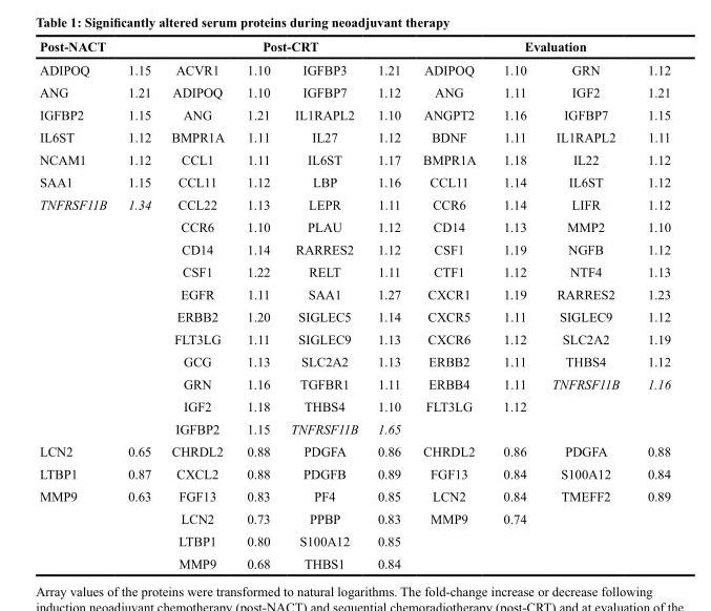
<table><thead><tr><td colspan="2">Post-NACT</td><td colspan="4">Post-CRT</td><td colspan="4">Evaluation</td></tr><tr><td>ADIPOQ</td><td>1.15</td><td>ACVR1</td><td>1.10</td><td>IGFBP3</td><td>1.21</td><td>ADIPOQ</td><td>1.10</td><td>GRN</td><td>1.12</td></tr></thead><tbody><tr><td>ANG</td><td>1.21</td><td>ADIPOQ</td><td>1.10</td><td>IGFBP7</td><td>1.12</td><td>ANG</td><td>1.11</td><td>IGF2</td><td>1.21</td></tr><tr><td>IGFBP2</td><td>1.15</td><td>ANG</td><td>1.21</td><td>IL1RAPL2</td><td>1.10</td><td>ANGPT2</td><td>1.16</td><td>IGFBP7</td><td>1.15</td></tr><tr><td>IL6ST</td><td>1.12</td><td>BMPR1A</td><td>1.11</td><td>IL27</td><td>1.12</td><td>BDNF</td><td>1.11</td><td>IL1RAPL2</td><td>1.11</td></tr><tr><td>NCAM1</td><td>1.12</td><td>CCL1</td><td>1.11</td><td>IL6ST</td><td>1.17</td><td>BMPR1A</td><td>1.18</td><td>IL22</td><td>1.12</td></tr><tr><td>SAA1</td><td>1.15</td><td>CCL11</td><td>1.12</td><td>LBP</td><td>1.16</td><td>CCL11</td><td>1.14</td><td>IL6ST</td><td>1.12</td></tr><tr><td rowspan="11">TNFRSF11B</td><td>1.34</td><td>CCL22</td><td>1.13</td><td>LEPR</td><td>1.11</td><td>CCR6</td><td>1.14</td><td>LIFR</td><td>1.12</td></tr><tr><td></td><td>CCR6</td><td>1.10</td><td>PLAU</td><td>1.12</td><td>CD14</td><td>1.13</td><td>MMP2</td><td>1.10</td></tr><tr><td></td><td>CD14</td><td>1.14</td><td>RARRES2</td><td>1.12</td><td>CSF1</td><td>1.19</td><td>NGFB</td><td>1.12</td></tr><tr><td></td><td>CSF1</td><td>1.22</td><td>RELT</td><td>1.11</td><td>CTF1</td><td>1.12</td><td>NTF4</td><td>1.13</td></tr><tr><td></td><td>EGFR</td><td>1.11</td><td>SAA1</td><td>1.27</td><td>CXCR1</td><td>1.19</td><td>RARRES2</td><td>1.23</td></tr><tr><td></td><td>ERBB2</td><td>1.20</td><td>SIGLEC5</td><td>1.14</td><td>CXCR5</td><td>1.11</td><td>SIGLEC9</td><td>1.12</td></tr><tr><td></td><td>FLT3LG</td><td>1.11</td><td>SIGLEC9</td><td>1.13</td><td>CXCR6</td><td>1.12</td><td>SLC2A2</td><td>1.19</td></tr><tr><td></td><td>GCG</td><td>1.13</td><td>SLC2A2</td><td>1.13</td><td>ERBB2</td><td>1.11</td><td>THBS4</td><td>1.12</td></tr><tr><td></td><td>GRN</td><td>1.16</td><td>TGFBR1</td><td>1.11</td><td>ERBB4</td><td>1.11</td><td>TNFRSF11B</td><td>1.16</td></tr><tr><td></td><td>IGF2</td><td>1.18</td><td>THBS4</td><td>1.10</td><td>FLT3LG</td><td>1.12</td><td></td><td></td></tr><tr><td></td><td>IGFBP2</td><td>1.15</td><td>TNFRSF11B</td><td>1.65</td><td></td><td></td><td></td><td></td></tr><tr><td>LCN2</td><td>0.65</td><td>CHRDL2</td><td>0.88</td><td>PDGFA</td><td>0.86</td><td>CHRDL2</td><td>0.86</td><td>PDGFA</td><td>0.88</td></tr><tr><td>LTBP1</td><td>0.87</td><td>CXCL2</td><td>0.88</td><td>PDGFB</td><td>0.89</td><td>FGF13</td><td>0.84</td><td>S100A12</td><td>0.84</td></tr><tr><td rowspan="4">MMP9</td><td>0.63</td><td>FGF13</td><td>0.83</td><td>PF4</td><td>0.85</td><td>LCN2</td><td>0.84</td><td>TMEFF2</td><td>0.89</td></tr><tr><td></td><td>LCN2</td><td>0.73</td><td>PPBP</td><td>0.83</td><td>MMP9</td><td>0.74</td><td></td><td></td></tr><tr><td></td><td>LTBP1</td><td>0.80</td><td>S100A12</td><td>0.85</td><td></td><td></td><td></td><td></td></tr><tr><td></td><td>MMP9</td><td>0.68</td><td>THBS1</td><td>0.84</td><td></td><td></td><td></td><td></td></tr></tbody></table>